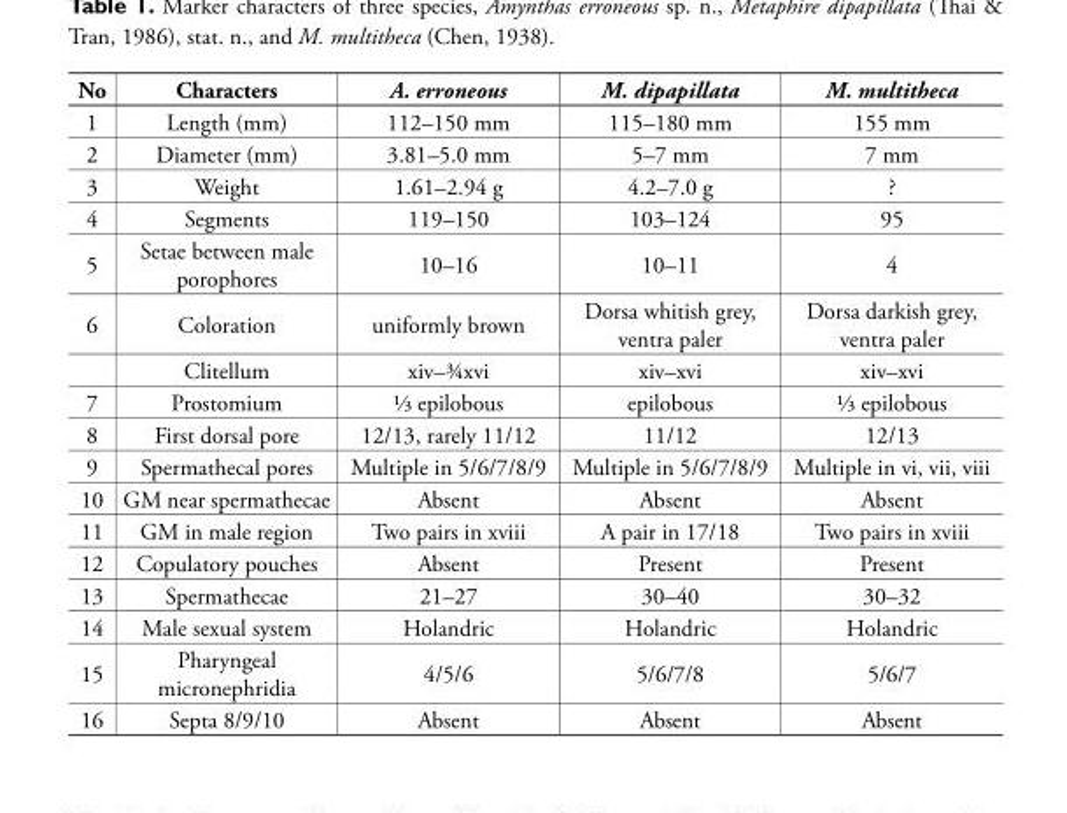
<table><thead><tr><td>No</td><td>Characters</td><td>A. erroneous</td><td>M. dipapillata</td><td>M. multitheca</td></tr></thead><tbody><tr><td>1</td><td>Length (mm)</td><td>112–150 mm</td><td>115–180 mm</td><td>155 mm</td></tr><tr><td>2</td><td>Diameter (mm)</td><td>3.81–5.0 mm</td><td>5–7 mm</td><td>7 mm</td></tr><tr><td>3</td><td>Weight</td><td>1.61–2.94 g</td><td>4.2–7.0 g</td><td>?</td></tr><tr><td>4</td><td>Segments</td><td>119–150</td><td>103–124</td><td>95</td></tr><tr><td>5</td><td>Setae between male porophores</td><td>10–16</td><td>10–11</td><td>4</td></tr><tr><td rowspan="2">6</td><td>Coloration</td><td>uniformly brown</td><td>Dorsa whitish grey, ventra paler</td><td>Dorsa darkish grey, ventra paler</td></tr><tr><td>Clitellum</td><td>xiv–¾xvi</td><td>xiv–xvi</td><td>xiv–xvi</td></tr><tr><td>7</td><td>Prostomium</td><td>⅓ epilobous</td><td>epilobous</td><td>⅓ epilobous</td></tr><tr><td>8</td><td>First dorsal pore</td><td>12/13, rarely 11/12</td><td>11/12</td><td>12/13</td></tr><tr><td>9</td><td>Spermathecal pores</td><td>Multiple in 5/6/7/8/9</td><td>Multiple in 5/6/7/8/9</td><td>Multiple in vi, vii, viii</td></tr><tr><td>10</td><td>GM near spermathecae</td><td>Absent</td><td>Absent</td><td>Absent</td></tr><tr><td>11</td><td>GM in male region</td><td>Two pairs in xviii</td><td>A pair in 17/18</td><td>Two pairs in xviii</td></tr><tr><td>12</td><td>Copulatory pouches</td><td>Absent</td><td>Present</td><td>Present</td></tr><tr><td>13</td><td>Spermathecae</td><td>21–27</td><td>30–40</td><td>30–32</td></tr><tr><td>14</td><td>Male sexual system</td><td>Holandric</td><td>Holandric</td><td>Holandric</td></tr><tr><td>15</td><td>Pharyngeal micronephridia</td><td>4/5/6</td><td>5/6/7/8</td><td>5/6/7</td></tr><tr><td>16</td><td>Septa 8/9/10</td><td>Absent</td><td>Absent</td><td>Absent</td></tr></tbody></table>